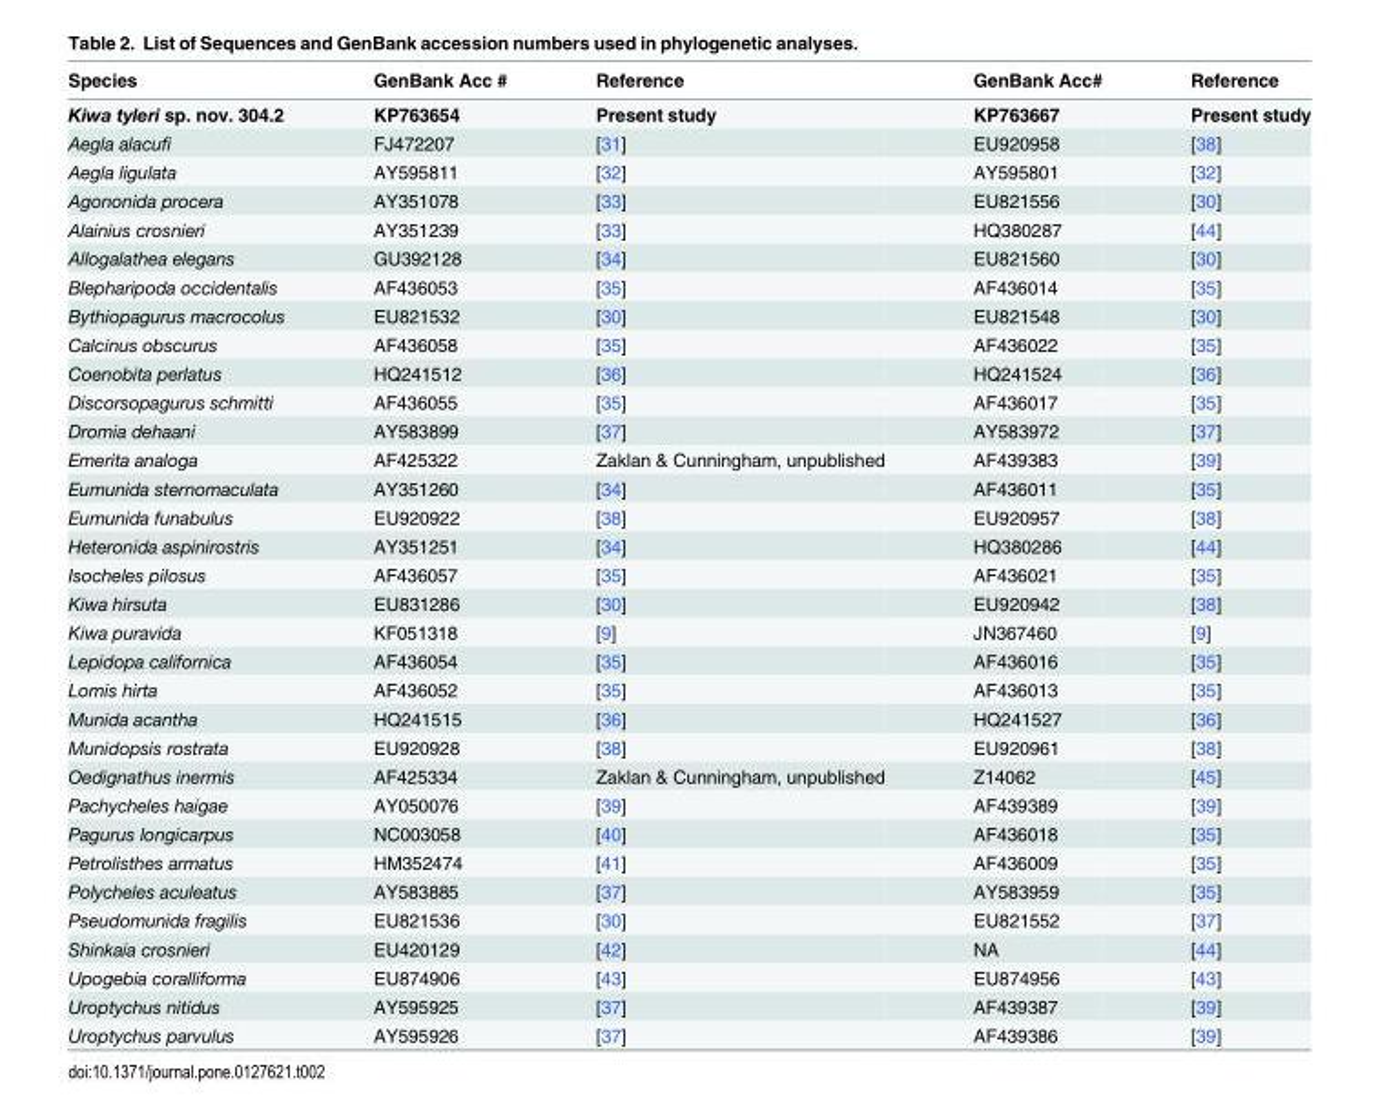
<table><thead><tr><td>Species</td><td>GenBank Acc #</td><td>Reference</td><td>GenBank Acc#</td><td>Reference</td></tr></thead><tbody><tr><td>Kiwa tyleri sp. nov. 304.2</td><td>KP763654</td><td>Present study</td><td>KP763667</td><td>Present study</td></tr><tr><td>Aegla alacufi</td><td>FJ472207</td><td>[31]</td><td>EU920958</td><td>[38]</td></tr><tr><td>Aegla ligulata</td><td>AY595811</td><td>[32]</td><td>AY595801</td><td>[32]</td></tr><tr><td>Agononida procera</td><td>AY351078</td><td>[33]</td><td>EU821556</td><td>[30]</td></tr><tr><td>Alainius crosnieri</td><td>AY351239</td><td>[33]</td><td>HQ380287</td><td>[44]</td></tr><tr><td>Allogalathea elegans</td><td>GU392128</td><td>[34]</td><td>EU821560</td><td>[30]</td></tr><tr><td>Blepharipoda occidentalis</td><td>AF436053</td><td>[35]</td><td>AF436014</td><td>[35]</td></tr><tr><td>Bythiopagurus macrocolus</td><td>EU821532</td><td>[30]</td><td>EU821548</td><td>[30]</td></tr><tr><td>Calcinus obscurus</td><td>AF436058</td><td>[35]</td><td>AF436022</td><td>[35]</td></tr><tr><td>Coenobita perlatus</td><td>HQ241512</td><td>[36]</td><td>HQ241524</td><td>[36]</td></tr><tr><td>Discorsopagurus schmitti</td><td>AF436055</td><td>[35]</td><td>AF436017</td><td>[35]</td></tr><tr><td>Dromia dehaani</td><td>AY583899</td><td>[37]</td><td>AY583972</td><td>[37]</td></tr><tr><td>Emerita analoga</td><td>AF425322</td><td>Zaklan &amp; Cunningham, unpublished</td><td>AF439383</td><td>[39]</td></tr><tr><td>Eumunida sternomaculata</td><td>AY351260</td><td>[34]</td><td>AF436011</td><td>[35]</td></tr><tr><td>Eumunida funabulus</td><td>EU920922</td><td>[38]</td><td>EU920957</td><td>[38]</td></tr><tr><td>Heteronida aspinirostris</td><td>AY351251</td><td>[34]</td><td>HQ380286</td><td>[44]</td></tr><tr><td>Isocheles pilosus</td><td>AF436057</td><td>[35]</td><td>AF436021</td><td>[35]</td></tr><tr><td>Kiwa hirsuta</td><td>EU831286</td><td>[30]</td><td>EU920942</td><td>[38]</td></tr><tr><td>Kiwa puravida</td><td>KF051318</td><td>[9]</td><td>JN367460</td><td>[9]</td></tr><tr><td>Lepidopa californica</td><td>AF436054</td><td>[35]</td><td>AF436016</td><td>[35]</td></tr><tr><td>Lomis hirta</td><td>AF436052</td><td>[35]</td><td>AF436013</td><td>[35]</td></tr><tr><td>Munida acantha</td><td>HQ241515</td><td>[36]</td><td>HQ241527</td><td>[36]</td></tr><tr><td>Munidopsis rostrata</td><td>EU920928</td><td>[38]</td><td>EU920961</td><td>[38]</td></tr><tr><td>Oedignathus inermis</td><td>AF425334</td><td>Zaklan &amp; Cunningham, unpublished</td><td>Z14062</td><td>[45]</td></tr><tr><td>Pachycheles haigae</td><td>AY050076</td><td>[39]</td><td>AF439389</td><td>[39]</td></tr><tr><td>Pagurus longicarpus</td><td>NC003058</td><td>[40]</td><td>AF436018</td><td>[35]</td></tr><tr><td>Petrolisthes armatus</td><td>HM352474</td><td>[41]</td><td>AF436009</td><td>[35]</td></tr><tr><td>Polycheles aculeatus</td><td>AY583885</td><td>[37]</td><td>AY583959</td><td>[35]</td></tr><tr><td>Pseudomunida fragilis</td><td>EU821536</td><td>[30]</td><td>EU821552</td><td>[37]</td></tr><tr><td>Shinkaia crosnieri</td><td>EU420129</td><td>[42]</td><td>NA</td><td>[44]</td></tr><tr><td>Upogebia coralliforma</td><td>EU874906</td><td>[43]</td><td>EU874956</td><td>[43]</td></tr><tr><td>Uroptychus nitidus</td><td>AY595925</td><td>[37]</td><td>AF439387</td><td>[39]</td></tr><tr><td>Uroptychus parvulus</td><td>AY595926</td><td>[37]</td><td>AF439386</td><td>[39]</td></tr></tbody></table>